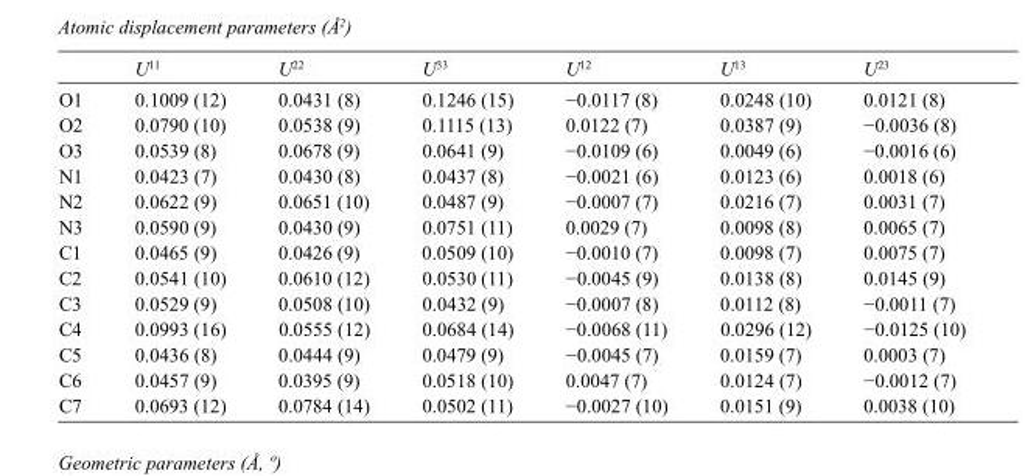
<table><thead><tr><td></td><td>U<sup>11</sup></td><td>U<sup>22</sup></td><td>U<sup>33</sup></td><td>U<sup>12</sup></td><td>U<sup>13</sup></td><td>U<sup>23</sup></td></tr></thead><tbody><tr><td>O1</td><td>0.1009 (12)</td><td>0.0431 (8)</td><td>0.1246 (15)</td><td>−0.0117 (8)</td><td>0.0248 (10)</td><td>0.0121 (8)</td></tr><tr><td>O2</td><td>0.0790 (10)</td><td>0.0538 (9)</td><td>0.1115 (13)</td><td>0.0122 (7)</td><td>0.0387 (9)</td><td>−0.0036 (8)</td></tr><tr><td>O3</td><td>0.0539 (8)</td><td>0.0678 (9)</td><td>0.0641 (9)</td><td>−0.0109 (6)</td><td>0.0049 (6)</td><td>−0.0016 (6)</td></tr><tr><td>N1</td><td>0.0423 (7)</td><td>0.0430 (8)</td><td>0.0437 (8)</td><td>−0.0021 (6)</td><td>0.0123 (6)</td><td>0.0018 (6)</td></tr><tr><td>N2</td><td>0.0622 (9)</td><td>0.0651 (10)</td><td>0.0487 (9)</td><td>−0.0007 (7)</td><td>0.0216 (7)</td><td>0.0031 (7)</td></tr><tr><td>N3</td><td>0.0590 (9)</td><td>0.0430 (9)</td><td>0.0751 (11)</td><td>0.0029 (7)</td><td>0.0098 (8)</td><td>0.0065 (7)</td></tr><tr><td>C1</td><td>0.0465 (9)</td><td>0.0426 (9)</td><td>0.0509 (10)</td><td>−0.0010 (7)</td><td>0.0098 (7)</td><td>0.0075 (7)</td></tr><tr><td>C2</td><td>0.0541 (10)</td><td>0.0610 (12)</td><td>0.0530 (11)</td><td>−0.0045 (9)</td><td>0.0138 (8)</td><td>0.0145 (9)</td></tr><tr><td>C3</td><td>0.0529 (9)</td><td>0.0508 (10)</td><td>0.0432 (9)</td><td>−0.0007 (8)</td><td>0.0112 (8)</td><td>−0.0011 (7)</td></tr><tr><td>C4</td><td>0.0993 (16)</td><td>0.0555 (12)</td><td>0.0684 (14)</td><td>−0.0068 (11)</td><td>0.0296 (12)</td><td>−0.0125 (10)</td></tr><tr><td>C5</td><td>0.0436 (8)</td><td>0.0444 (9)</td><td>0.0479 (9)</td><td>−0.0045 (7)</td><td>0.0159 (7)</td><td>0.0003 (7)</td></tr><tr><td>C6</td><td>0.0457 (9)</td><td>0.0395 (9)</td><td>0.0518 (10)</td><td>0.0047 (7)</td><td>0.0124 (7)</td><td>−0.0012 (7)</td></tr><tr><td>C7</td><td>0.0693 (12)</td><td>0.0784 (14)</td><td>0.0502 (11)</td><td>−0.0027 (10)</td><td>0.0151 (9)</td><td>0.0038 (10)</td></tr></tbody></table>